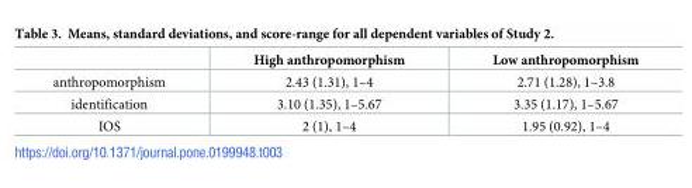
<table><thead><tr><td></td><td>High anthropomorphism</td><td>Low anthropomorphism</td></tr></thead><tbody><tr><td>anthropomorphism</td><td>2.43 (1.31), 1–4</td><td>2.71 (1.28), 1–3.8</td></tr><tr><td>identification</td><td>3.10 (1.35), 1–5.67</td><td>3.35 (1.17), 1–5.67</td></tr><tr><td>IOS</td><td>2 (1), 1–4</td><td>1.95 (0.92), 1–4</td></tr></tbody></table>